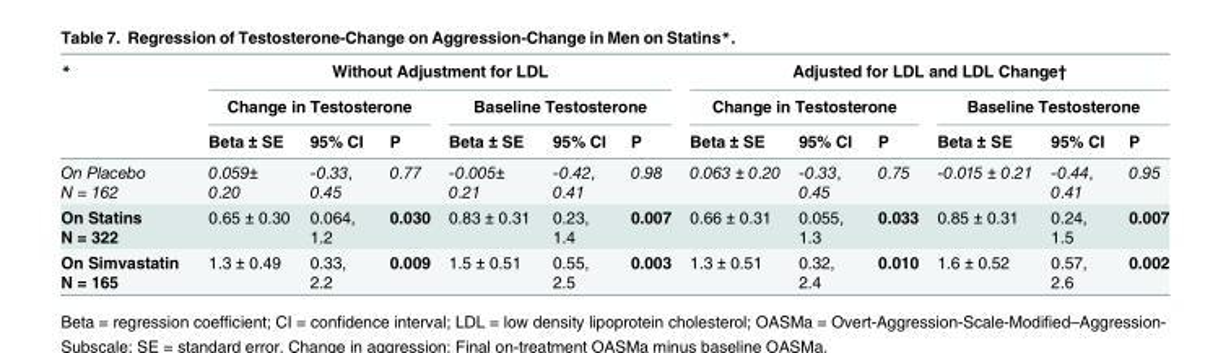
<table><thead><tr><td rowspan="3">*</td><td colspan="6">Without Adjustment for LDL</td><td colspan="6">Adjusted for LDL and LDL Change†</td></tr><tr><td colspan="3">Change in Testosterone</td><td colspan="3">Baseline Testosterone</td><td colspan="3">Change in Testosterone</td><td colspan="3">Baseline Testosterone</td></tr><tr><td>Beta ± SE</td><td>95% CI</td><td>P</td><td>Beta ± SE</td><td>95% CI</td><td>P</td><td>Beta ± SE</td><td>95% CI</td><td>P</td><td>Beta ± SE</td><td>95% CI</td><td>P</td></tr></thead><tbody><tr><td>On Placebo N = 162</td><td>0.059± 0.20</td><td>-0.33, 0.45</td><td>0.77</td><td>-0.005± 0.21</td><td>-0.42, 0.41</td><td>0.98</td><td>0.063 ± 0.20</td><td>-0.33, 0.45</td><td>0.75</td><td>-0.015 ± 0.21</td><td>-0.44, 0.41</td><td>0.95</td></tr><tr><td>On Statins N = 322</td><td>0.65 ± 0.30</td><td>0.064, 1.2</td><td>0.030</td><td>0.83 ± 0.31</td><td>0.23, 1.4</td><td>0.007</td><td>0.66 ± 0.31</td><td>0.055, 1.3</td><td>0.033</td><td>0.85 ± 0.31</td><td>0.24, 1.5</td><td>0.007</td></tr><tr><td>On Simvastatin N = 165</td><td>1.3 ± 0.49</td><td>0.33, 2.2</td><td>0.009</td><td>1.5 ± 0.51</td><td>0.55, 2.5</td><td>0.003</td><td>1.3 ± 0.51</td><td>0.32, 2.4</td><td>0.010</td><td>1.6 ± 0.52</td><td>0.57, 2.6</td><td>0.002</td></tr></tbody></table>